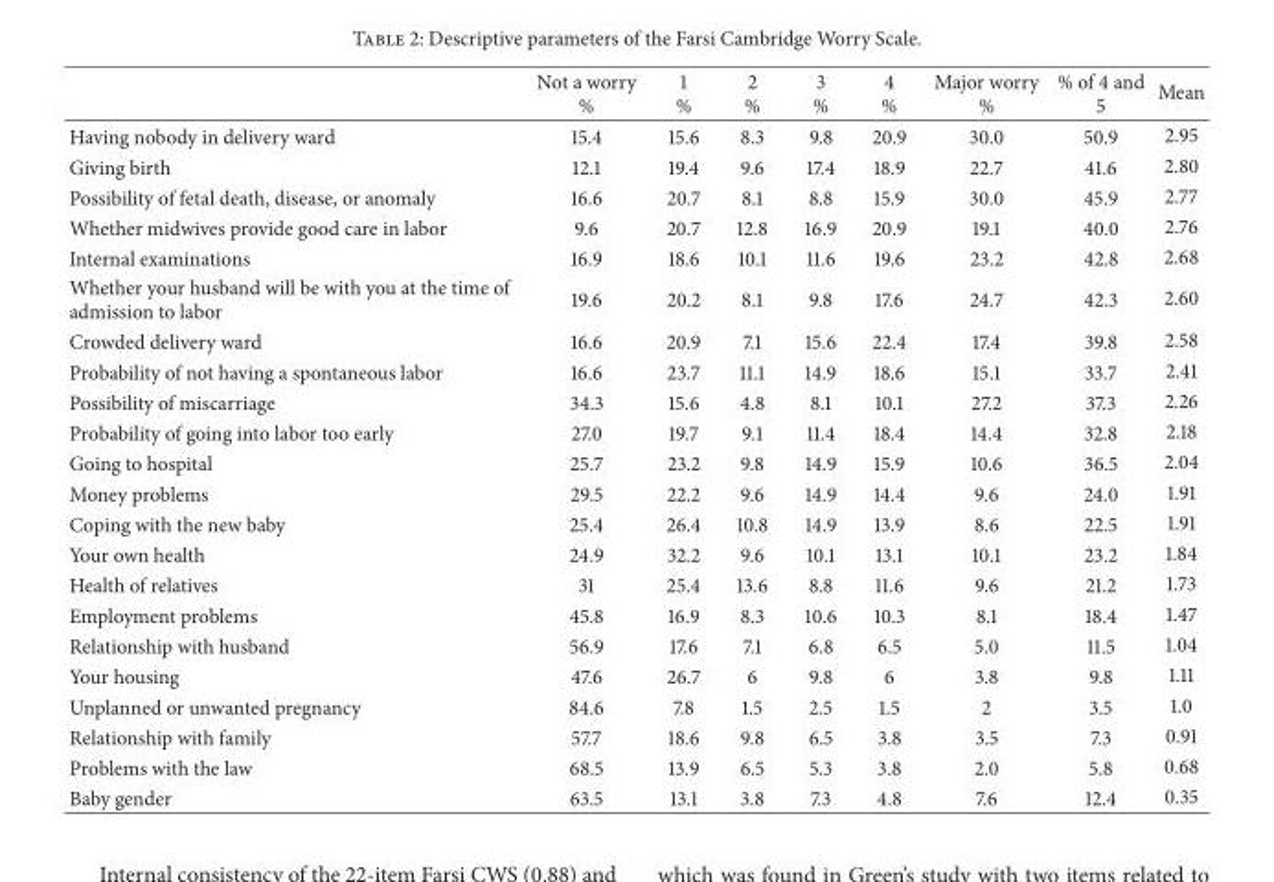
<table><thead><tr><td></td><td>Not a worry %</td><td>1 %</td><td>2 %</td><td>3 %</td><td>4 %</td><td>Major worry %</td><td>% of 4 and 5</td><td>Mean</td></tr></thead><tbody><tr><td>Having nobody in delivery ward</td><td>15.4</td><td>15.6</td><td>8.3</td><td>9.8</td><td>20.9</td><td>30.0</td><td>50.9</td><td>2.95</td></tr><tr><td>Giving birth</td><td>12.1</td><td>19.4</td><td>9.6</td><td>17.4</td><td>18.9</td><td>22.7</td><td>41.6</td><td>2.80</td></tr><tr><td>Possibility of fetal death, disease, or anomaly</td><td>16.6</td><td>20.7</td><td>8.1</td><td>8.8</td><td>15.9</td><td>30.0</td><td>45.9</td><td>2.77</td></tr><tr><td>Whether midwives provide good care in labor</td><td>9.6</td><td>20.7</td><td>12.8</td><td>16.9</td><td>20.9</td><td>19.1</td><td>40.0</td><td>2.76</td></tr><tr><td>Internal examinations</td><td>16.9</td><td>18.6</td><td>10.1</td><td>11.6</td><td>19.6</td><td>23.2</td><td>42.8</td><td>2.68</td></tr><tr><td>Whether your husband will be with you at the time of admission to labor</td><td>19.6</td><td>20.2</td><td>8.1</td><td>9.8</td><td>17.6</td><td>24.7</td><td>42.3</td><td>2.60</td></tr><tr><td>Crowded delivery ward</td><td>16.6</td><td>20.9</td><td>7.1</td><td>15.6</td><td>22.4</td><td>17.4</td><td>39.8</td><td>2.58</td></tr><tr><td>Probability of not having a spontaneous labor</td><td>16.6</td><td>23.7</td><td>11.1</td><td>14.9</td><td>18.6</td><td>15.1</td><td>33.7</td><td>2.41</td></tr><tr><td>Possibility of miscarriage</td><td>34.3</td><td>15.6</td><td>4.8</td><td>8.1</td><td>10.1</td><td>27.2</td><td>37.3</td><td>2.26</td></tr><tr><td>Probability of going into labor too early</td><td>27.0</td><td>19.7</td><td>9.1</td><td>11.4</td><td>18.4</td><td>14.4</td><td>32.8</td><td>2.18</td></tr><tr><td>Going to hospital</td><td>25.7</td><td>23.2</td><td>9.8</td><td>14.9</td><td>15.9</td><td>10.6</td><td>36.5</td><td>2.04</td></tr><tr><td>Money problems</td><td>29.5</td><td>22.2</td><td>9.6</td><td>14.9</td><td>14.4</td><td>9.6</td><td>24.0</td><td>1.91</td></tr><tr><td>Coping with the new baby</td><td>25.4</td><td>26.4</td><td>10.8</td><td>14.9</td><td>13.9</td><td>8.6</td><td>22.5</td><td>1.91</td></tr><tr><td>Your own health</td><td>24.9</td><td>32.2</td><td>9.6</td><td>10.1</td><td>13.1</td><td>10.1</td><td>23.2</td><td>1.84</td></tr><tr><td>Health of relatives</td><td>31</td><td>25.4</td><td>13.6</td><td>8.8</td><td>11.6</td><td>9.6</td><td>21.2</td><td>1.73</td></tr><tr><td>Employment problems</td><td>45.8</td><td>16.9</td><td>8.3</td><td>10.6</td><td>10.3</td><td>8.1</td><td>18.4</td><td>1.47</td></tr><tr><td>Relationship with husband</td><td>56.9</td><td>17.6</td><td>7.1</td><td>6.8</td><td>6.5</td><td>5.0</td><td>11.5</td><td>1.04</td></tr><tr><td>Your housing</td><td>47.6</td><td>26.7</td><td>6</td><td>9.8</td><td>6</td><td>3.8</td><td>9.8</td><td>1.11</td></tr><tr><td>Unplanned or unwanted pregnancy</td><td>84.6</td><td>7.8</td><td>1.5</td><td>2.5</td><td>1.5</td><td>2</td><td>3.5</td><td>1.0</td></tr><tr><td>Relationship with family</td><td>57.7</td><td>18.6</td><td>9.8</td><td>6.5</td><td>3.8</td><td>3.5</td><td>7.3</td><td>0.91</td></tr><tr><td>Problems with the law</td><td>68.5</td><td>13.9</td><td>6.5</td><td>5.3</td><td>3.8</td><td>2.0</td><td>5.8</td><td>0.68</td></tr><tr><td>Baby gender</td><td>63.5</td><td>13.1</td><td>3.8</td><td>7.3</td><td>4.8</td><td>7.6</td><td>12.4</td><td>0.35</td></tr></tbody></table>